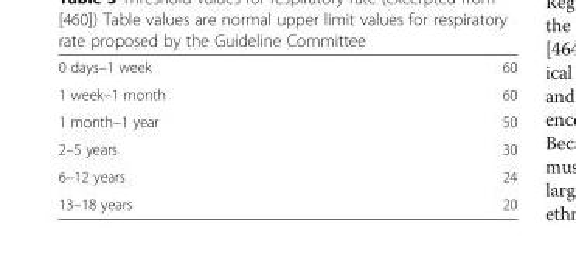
<table><tbody><tr><td>0 days–1 week</td><td>60</td></tr><tr><td>1 week–1 month</td><td>60</td></tr><tr><td>1 month–1 year</td><td>50</td></tr><tr><td>2–5 years</td><td>30</td></tr><tr><td>6–12 years</td><td>24</td></tr><tr><td>13–18 years</td><td>20</td></tr></tbody></table>